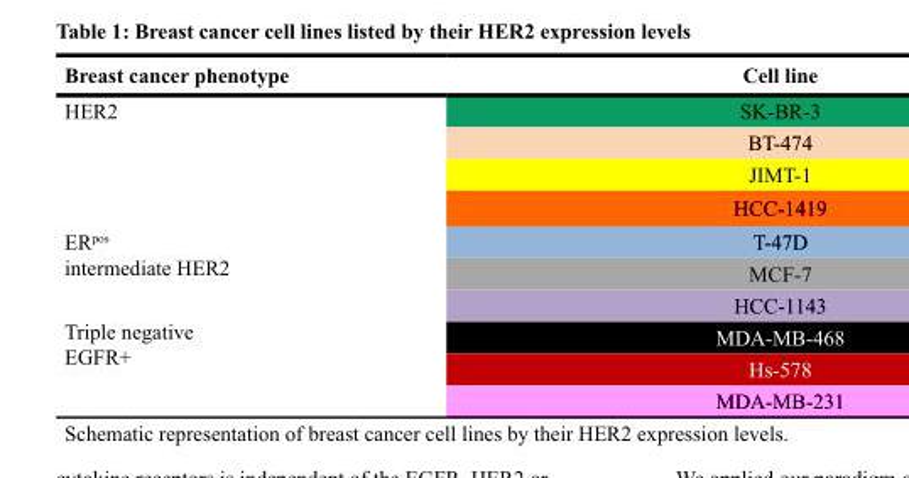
<table><thead><tr><td>Breast cancer phenotype</td><td>Cell line</td></tr></thead><tbody><tr><td rowspan="4">HER2</td><td>SK-BR-3</td></tr><tr><td>BT-474</td></tr><tr><td>JIMT-1</td></tr><tr><td>HCC-1419</td></tr><tr><td rowspan="2">ER<sup>pos</sup> intermediate HER2</td><td>T-47D</td></tr><tr><td>MCF-7</td></tr><tr><td rowspan="4">Triple negative EGFR+</td><td>HCC-1143</td></tr><tr><td>MDA-MB-468</td></tr><tr><td>Hs-578</td></tr><tr><td>MDA-MB-231</td></tr></tbody></table>